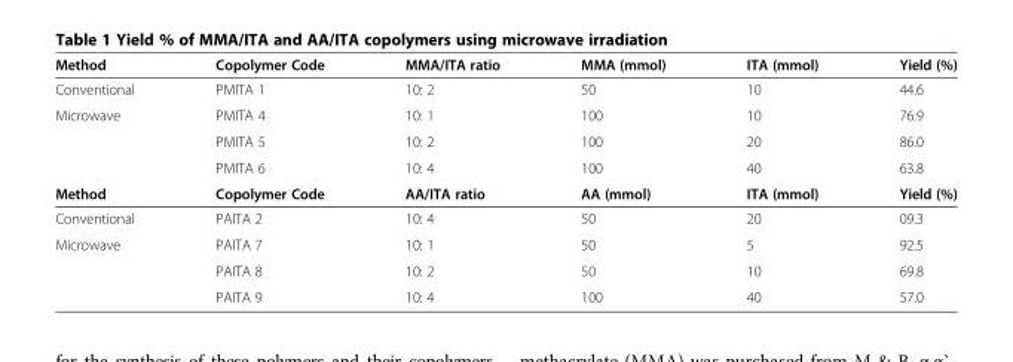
<table><thead><tr><td>Method</td><td>Copolymer Code</td><td>MMA/ITA ratio</td><td>MMA (mmol)</td><td>ITA (mmol)</td><td>Yield (%)</td></tr></thead><tbody><tr><td>Conventional</td><td>PMITA 1</td><td>10: 2</td><td>50</td><td>10</td><td>44.6</td></tr><tr><td rowspan="3">Microwave</td><td>PMITA 4</td><td>10: 1</td><td>100</td><td>10</td><td>76.9</td></tr><tr><td>PMITA 5</td><td>10: 2</td><td>100</td><td>20</td><td>86.0</td></tr><tr><td>PMITA 6</td><td>10: 4</td><td>100</td><td>40</td><td>63.8</td></tr><tr><td>Method</td><td>Copolymer Code</td><td>AA/ITA ratio</td><td>AA (mmol)</td><td>ITA (mmol)</td><td>Yield (%)</td></tr><tr><td>Conventional</td><td>PAITA 2</td><td>10: 4</td><td>50</td><td>20</td><td>09.3</td></tr><tr><td rowspan="3">Microwave</td><td>PAITA 7</td><td>10: 1</td><td>50</td><td>5</td><td>92.5</td></tr><tr><td>PAITA 8</td><td>10: 2</td><td>50</td><td>10</td><td>69.8</td></tr><tr><td>PAITA 9</td><td>10: 4</td><td>100</td><td>40</td><td>57.0</td></tr></tbody></table>